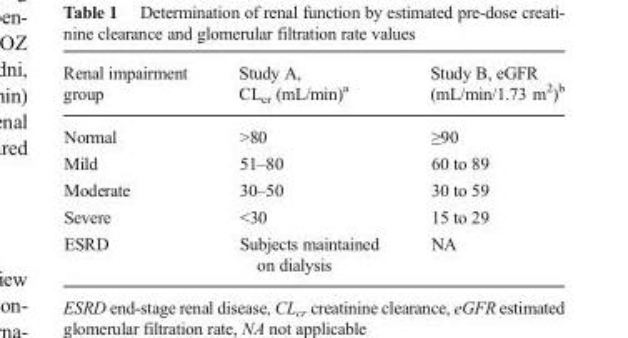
<table><thead><tr><td>Renal impairment group</td><td>Study A, CL<sub>cr</sub> (mL/min)<sup>a</sup></td><td>Study B, eGFR (mL/min/1.73 m<sup>2</sup>)<sup>b</sup></td></tr></thead><tbody><tr><td>Normal</td><td>&gt;80</td><td>≥90</td></tr><tr><td>Mild</td><td>51–80</td><td>60 to 89</td></tr><tr><td>Moderate</td><td>30–50</td><td>30 to 59</td></tr><tr><td>Severe</td><td>&lt;30</td><td>15 to 29</td></tr><tr><td>ESRD</td><td>Subjects maintained on dialysis</td><td>NA</td></tr></tbody></table>